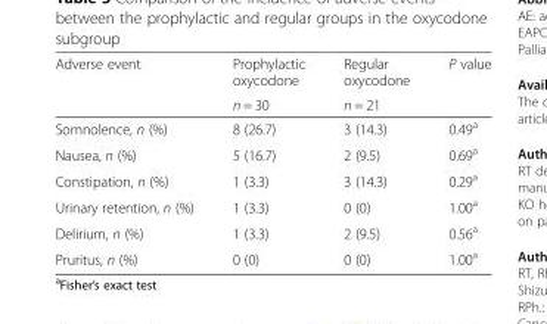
<table><thead><tr><td rowspan="2">Adverse event</td><td rowspan="2">Prophylactic oxycodone n = 30</td><td rowspan="2">Regular oxycodone n = 21</td><td rowspan="2">P value</td></tr><tr></tr></thead><tbody><tr><td>Somnolence, n (%)</td><td>8 (26.7)</td><td>3 (14.3)</td><td>0.49<sup>a</sup></td></tr><tr><td>Nausea, n (%)</td><td>5 (16.7)</td><td>2 (9.5)</td><td>0.69<sup>a</sup></td></tr><tr><td>Constipation, n (%)</td><td>1 (3.3)</td><td>3 (14.3)</td><td>0.29<sup>a</sup></td></tr><tr><td>Urinary retention, n (%)</td><td>1 (3.3)</td><td>0 (0)</td><td>1.00<sup>a</sup></td></tr><tr><td>Delirium, n (%)</td><td>1 (3.3)</td><td>2 (9.5)</td><td>0.56<sup>a</sup></td></tr><tr><td>Pruritus, n (%)</td><td>0 (0)</td><td>0 (0)</td><td>1.00<sup>a</sup></td></tr></tbody></table>